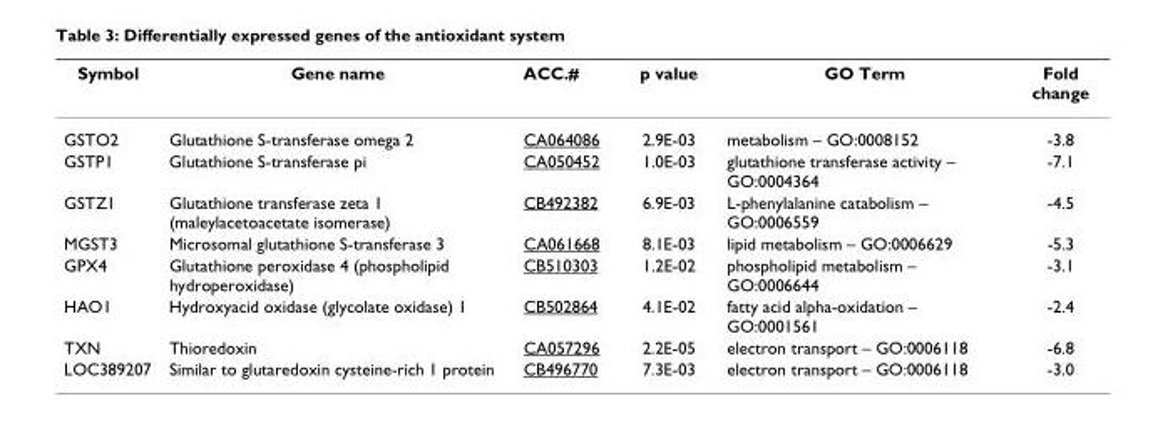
<table><thead><tr><td>Symbol</td><td>Gene name</td><td>ACC.#</td><td>p value</td><td>GO Term</td><td>Fold change</td></tr></thead><tbody><tr><td>GSTO2</td><td>Glutathione S-transferase omega 2</td><td>CA064086</td><td>2.9E-03</td><td>metabolism – GO:0008152</td><td>-3.8</td></tr><tr><td>GSTP1</td><td>Glutathione S-transferase pi</td><td>CA050452</td><td>1.0E-03</td><td>glutathione transferase activity – GO:0004364</td><td>-7.1</td></tr><tr><td>GSTZ1</td><td>Glutathione transferase zeta 1 (maleylacetoacetate isomerase)</td><td>CB492382</td><td>6.9E-03</td><td>L-phenylalanine catabolism – GO:0006559</td><td>-4.5</td></tr><tr><td>MGST3</td><td>Microsomal glutathione S-transferase 3</td><td>CA061668</td><td>8.1E-03</td><td>lipid metabolism – GO:0006629</td><td>-5.3</td></tr><tr><td>GPX4</td><td>Glutathione peroxidase 4 (phospholipid hydroperoxidase)</td><td>CB510303</td><td>1.2E-02</td><td>phospholipid metabolism – GO:0006644</td><td>-3.1</td></tr><tr><td>HAO1</td><td>Hydroxyacid oxidase (glycolate oxidase) 1</td><td>CB502864</td><td>4.1E-02</td><td>fatty acid alpha-oxidation – GO:0001561</td><td>-2.4</td></tr><tr><td>TXN</td><td>Thioredoxin</td><td>CA057296</td><td>2.2E-05</td><td>electron transport – GO:0006118</td><td>-6.8</td></tr><tr><td>LOC389207</td><td>Similar to glutaredoxin cysteine-rich 1 protein</td><td>CB496770</td><td>7.3E-03</td><td>electron transport – GO:0006118</td><td>-3.0</td></tr></tbody></table>